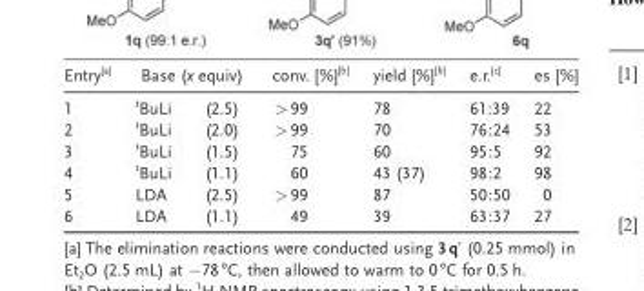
<table><thead><tr><td rowspan="2">Entry<sup>[a]</sup> 1</td><td colspan="2">Base (x equiv)</td><td rowspan="2">conv. [%]<sup>[b]</sup> &gt;99</td><td rowspan="2">yield [%]<sup>[b]</sup> 78</td><td rowspan="2">e.r.<sup>[c]</sup> 61:39</td><td rowspan="2">es [%] 22</td></tr><tr><td><sup>t</sup>BuLi</td><td>(2.5)</td></tr></thead><tbody><tr><td>2</td><td><sup>t</sup>BuLi</td><td>(2.0)</td><td>&gt;99</td><td>70</td><td>76:24</td><td>53</td></tr><tr><td>3</td><td><sup>t</sup>BuLi</td><td>(1.5)</td><td>75</td><td>60</td><td>95:5</td><td>92</td></tr><tr><td>4</td><td><sup>t</sup>BuLi</td><td>(1.1)</td><td>60</td><td>43 (37)</td><td>98:2</td><td>98</td></tr><tr><td>5</td><td>LDA</td><td>(2.5)</td><td>&gt;99</td><td>87</td><td>50:50</td><td>0</td></tr><tr><td>6</td><td>LDA</td><td>(1.1)</td><td>49</td><td>39</td><td>63:37</td><td>27</td></tr></tbody></table>